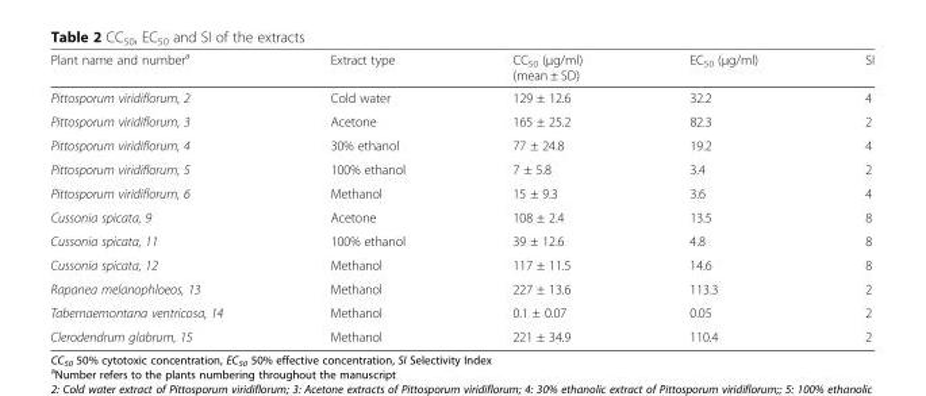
<table><thead><tr><td>Plant name and number<sup>a</sup></td><td>Extract type</td><td>CC<sub>50</sub> (μg/ml) (mean ± SD)</td><td>EC<sub>50</sub> (μg/ml)</td><td>SI</td></tr></thead><tbody><tr><td>Pittosporum viridiflorum, 2</td><td>Cold water</td><td>129 ± 12.6</td><td>32.2</td><td>4</td></tr><tr><td>Pittosporum viridiflorum, 3</td><td>Acetone</td><td>165 ± 25.2</td><td>82.3</td><td>2</td></tr><tr><td>Pittosporum viridiflorum, 4</td><td>30% ethanol</td><td>77 ± 24.8</td><td>19.2</td><td>4</td></tr><tr><td>Pittosporum viridiflorum, 5</td><td>100% ethanol</td><td>7 ± 5.8</td><td>3.4</td><td>2</td></tr><tr><td>Pittosporum viridiflorum, 6</td><td>Methanol</td><td>15 ± 9.3</td><td>3.6</td><td>4</td></tr><tr><td>Cussonia spicata, 9</td><td>Acetone</td><td>108 ± 2.4</td><td>13.5</td><td>8</td></tr><tr><td>Cussonia spicata, 11</td><td>100% ethanol</td><td>39 ± 12.6</td><td>4.8</td><td>8</td></tr><tr><td>Cussonia spicata, 12</td><td>Methanol</td><td>117 ± 11.5</td><td>14.6</td><td>8</td></tr><tr><td>Rapanea melanophloeos, 13</td><td>Methanol</td><td>227 ± 13.6</td><td>113.3</td><td>2</td></tr><tr><td>Tabernaemontana ventricosa, 14</td><td>Methanol</td><td>0.1 ± 0.07</td><td>0.05</td><td>2</td></tr><tr><td>Clerodendrum glabrum, 15</td><td>Methanol</td><td>221 ± 34.9</td><td>110.4</td><td>2</td></tr></tbody></table>